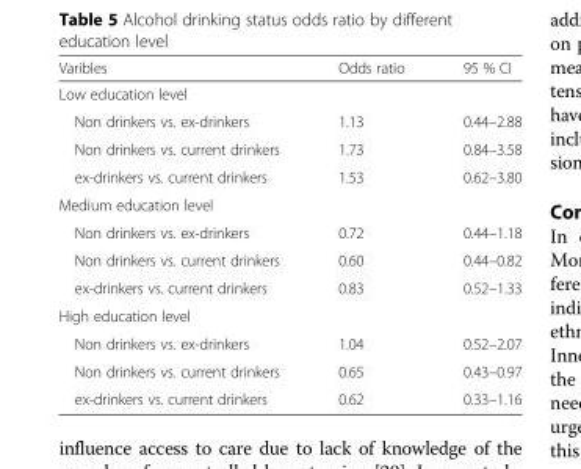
<table><thead><tr><td>Varibles</td><td>Odds ratio</td><td>95 % CI</td></tr></thead><tbody><tr><td colspan="3">Low education level</td></tr><tr><td>Non drinkers vs. ex-drinkers</td><td>1.13</td><td>0.44–2.88</td></tr><tr><td>Non drinkers vs. current drinkers</td><td>1.73</td><td>0.84–3.58</td></tr><tr><td>ex-drinkers vs. current drinkers</td><td>1.53</td><td>0.62–3.80</td></tr><tr><td colspan="3">Medium education level</td></tr><tr><td>Non drinkers vs. ex-drinkers</td><td>0.72</td><td>0.44–1.18</td></tr><tr><td>Non drinkers vs. current drinkers</td><td>0.60</td><td>0.44–0.82</td></tr><tr><td>ex-drinkers vs. current drinkers</td><td>0.83</td><td>0.52–1.33</td></tr><tr><td colspan="3">High education level</td></tr><tr><td>Non drinkers vs. ex-drinkers</td><td>1.04</td><td>0.52–2.07</td></tr><tr><td>Non drinkers vs. current drinkers</td><td>0.65</td><td>0.43–0.97</td></tr><tr><td>ex-drinkers vs. current drinkers</td><td>0.62</td><td>0.33–1.16</td></tr></tbody></table>